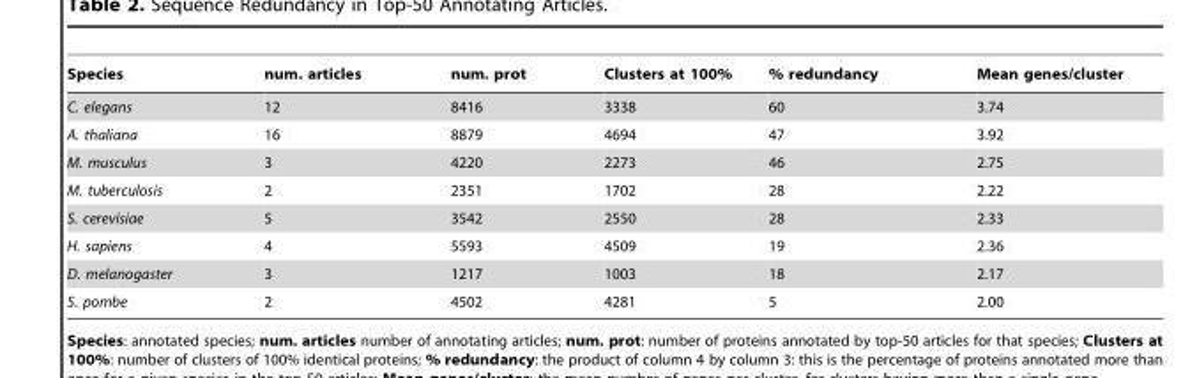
<table><thead><tr><td>Species</td><td>num. articles</td><td>num. prot</td><td>Clusters at 100%</td><td>% redundancy</td><td>Mean genes/cluster</td></tr></thead><tbody><tr><td>C. elegans</td><td>12</td><td>8416</td><td>3338</td><td>60</td><td>3.74</td></tr><tr><td>A. thaliana</td><td>16</td><td>8879</td><td>4694</td><td>47</td><td>3.92</td></tr><tr><td>M. musculus</td><td>3</td><td>4220</td><td>2273</td><td>46</td><td>2.75</td></tr><tr><td>M. tuberculosis</td><td>2</td><td>2351</td><td>1702</td><td>28</td><td>2.22</td></tr><tr><td>S. cerevisiae</td><td>5</td><td>3542</td><td>2550</td><td>28</td><td>2.33</td></tr><tr><td>H. sapiens</td><td>4</td><td>5593</td><td>4509</td><td>19</td><td>2.36</td></tr><tr><td>D. melanogaster</td><td>3</td><td>1217</td><td>1003</td><td>18</td><td>2.17</td></tr><tr><td>S. pombe</td><td>2</td><td>4502</td><td>4281</td><td>5</td><td>2.00</td></tr></tbody></table>